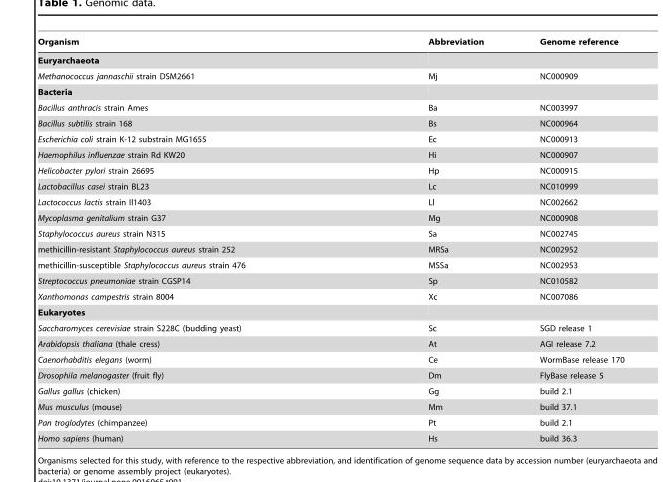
<table><thead><tr><td>Organism</td><td>Abbreviation</td><td>Genome reference</td></tr></thead><tbody><tr><td colspan="3">Euryarchaeota</td></tr><tr><td>Methanococcus jannaschii strain DSM2661</td><td>Mj</td><td>NC000909</td></tr><tr><td colspan="3">Bacteria</td></tr><tr><td>Bacillus anthracis strain Ames</td><td>Ba</td><td>NC003997</td></tr><tr><td>Bacillus subtilis strain 168</td><td>Bs</td><td>NC000964</td></tr><tr><td>Escherichia coli strain K-12 substrain MG1655</td><td>Ec</td><td>NC000913</td></tr><tr><td>Haemophilus influenzae strain Rd KW20</td><td>Hi</td><td>NC000907</td></tr><tr><td>Helicobacter pylori strain 26695</td><td>Hp</td><td>NC000915</td></tr><tr><td>Lactobacillus casei strain BL23</td><td>Lc</td><td>NC010999</td></tr><tr><td>Lactococcus lactis strain Il1403</td><td>Ll</td><td>NC002662</td></tr><tr><td>Mycoplasma genitalium strain G37</td><td>Mg</td><td>NC000908</td></tr><tr><td>Staphylococcus aureus strain N315</td><td>Sa</td><td>NC002745</td></tr><tr><td>methicillin-resistant Staphylococcus aureus strain 252</td><td>MRSa</td><td>NC002952</td></tr><tr><td>methicillin-susceptible Staphylococcus aureus strain 476</td><td>MSSa</td><td>NC002953</td></tr><tr><td>Streptococcus pneumoniae strain CGSP14</td><td>Sp</td><td>NC010582</td></tr><tr><td>Xanthomonas campestris strain 8004</td><td>Xc</td><td>NC007086</td></tr><tr><td colspan="3">Eukaryotes</td></tr><tr><td>Saccharomyces cerevisiae strain S228C (budding yeast)</td><td>Sc</td><td>SGD release 1</td></tr><tr><td>Arabidopsis thaliana (thale cress)</td><td>At</td><td>AGI release 7.2</td></tr><tr><td>Caenorhabditis elegans (worm)</td><td>Ce</td><td>WormBase release 170</td></tr><tr><td>Drosophila melanogaster (fruit fly)</td><td>Dm</td><td>FlyBase release 5</td></tr><tr><td>Gallus gallus (chicken)</td><td>Gg</td><td>build 2.1</td></tr><tr><td>Mus musculus (mouse)</td><td>Mm</td><td>build 37.1</td></tr><tr><td>Pan troglodytes (chimpanzee)</td><td>Pt</td><td>build 2.1</td></tr><tr><td>Homo sapiens (human)</td><td>Hs</td><td>build 36.3</td></tr></tbody></table>